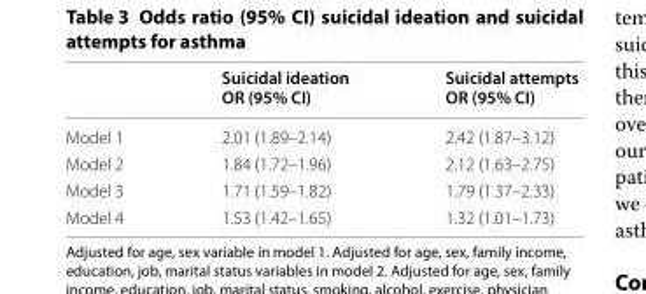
<table><thead><tr><td></td><td>Suicidal ideation OR (95% CI)</td><td>Suicidal attempts OR (95% CI)</td></tr></thead><tbody><tr><td>Model 1</td><td>2.01 (1.89–2.14)</td><td>2.42 (1.87–3.12)</td></tr><tr><td>Model 2</td><td>1.84 (1.72–1.96)</td><td>2.12 (1.63–2.75)</td></tr><tr><td>Model 3</td><td>1.71 (1.59–1.82)</td><td>1.79 (1.37–2.33)</td></tr><tr><td>Model 4</td><td>1.53 (1.42–1.65)</td><td>1.32 (1.01–1.73)</td></tr></tbody></table>